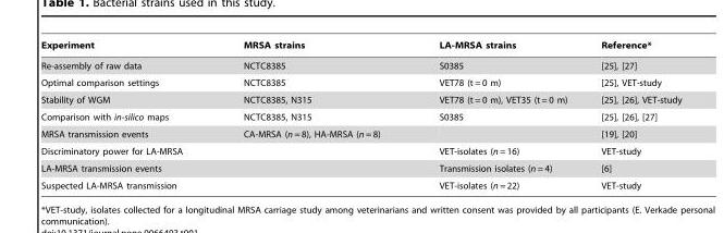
<table><thead><tr><td>Experiment</td><td>MRSA strains</td><td>LA-MRSA strains</td><td>Reference*</td></tr></thead><tbody><tr><td>Re-assembly of raw data</td><td>NCTC8385</td><td>S0385</td><td>[25], [27]</td></tr><tr><td>Optimal comparison settings</td><td>NCTC8385</td><td>VET78 (t = 0 m)</td><td>[25], VET-study</td></tr><tr><td>Stability of WGM</td><td>NCTC8385, N315</td><td>VET78 (t = 0 m), VET35 (t = 0 m)</td><td>[25], [26], VET-study</td></tr><tr><td>Comparison with in-silico maps</td><td>NCTC8385, N315</td><td>S0385</td><td>[25], [26], [27]</td></tr><tr><td>MRSA transmission events</td><td>CA-MRSA (n = 8), HA-MRSA (n = 8)</td><td></td><td>[19], [20]</td></tr><tr><td>Discriminatory power for LA-MRSA</td><td></td><td>VET-isolates (n = 16)</td><td>VET-study</td></tr><tr><td>LA-MRSA transmission events</td><td></td><td>Transmission isolates (n = 4)</td><td>[6]</td></tr><tr><td>Suspected LA-MRSA transmission</td><td></td><td>VET-isolates (n = 22)</td><td>VET-study</td></tr></tbody></table>